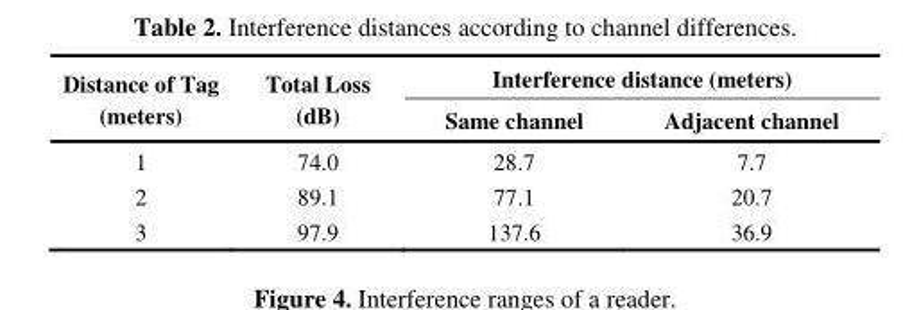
<table><thead><tr><td rowspan="2">Distance of Tag (meters)</td><td rowspan="2">Total Loss (dB)</td><td colspan="2">Interference distance (meters)</td></tr><tr><td>Same channel</td><td>Adjacent channel</td></tr></thead><tbody><tr><td>1</td><td>74.0</td><td>28.7</td><td>7.7</td></tr><tr><td>2</td><td>89.1</td><td>77.1</td><td>20.7</td></tr><tr><td>3</td><td>97.9</td><td>137.6</td><td>36.9</td></tr></tbody></table>